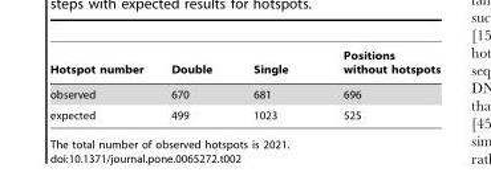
<table><thead><tr><td>Hotspot number</td><td>Double</td><td>Single</td><td>Positions without hotspots</td></tr></thead><tbody><tr><td>observed</td><td>670</td><td>681</td><td>696</td></tr><tr><td>expected</td><td>499</td><td>1023</td><td>525</td></tr></tbody></table>